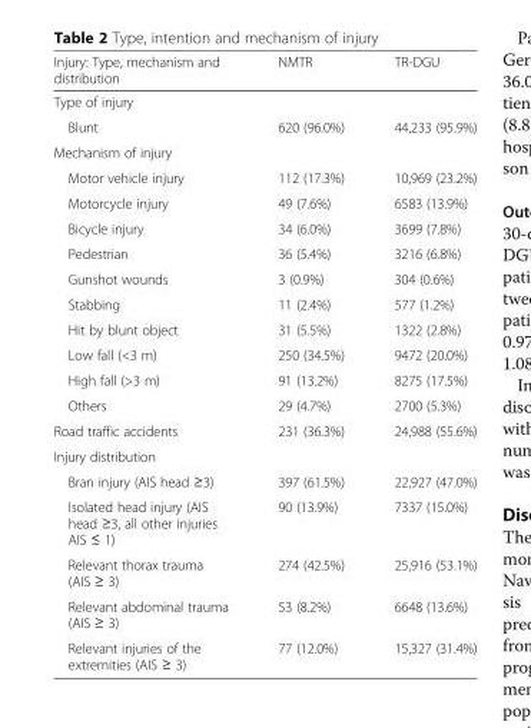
<table><thead><tr><td>Injury: Type, mechanism and distribution</td><td>NMTR</td><td>TR-DGU</td></tr></thead><tbody><tr><td colspan="3">Type of injury</td></tr><tr><td>Blunt</td><td>620 (96.0%)</td><td>44,233 (95.9%)</td></tr><tr><td colspan="3">Mechanism of injury</td></tr><tr><td>Motor vehicle injury</td><td>112 (17.3%)</td><td>10,969 (23.2%)</td></tr><tr><td>Motorcycle injury</td><td>49 (7.6%)</td><td>6583 (13.9%)</td></tr><tr><td>Bicycle injury</td><td>34 (6.0%)</td><td>3699 (7.8%)</td></tr><tr><td>Pedestrian</td><td>36 (5.4%)</td><td>3216 (6.8%)</td></tr><tr><td>Gunshot wounds</td><td>3 (0.9%)</td><td>304 (0.6%)</td></tr><tr><td>Stabbing</td><td>11 (2.4%)</td><td>577 (1.2%)</td></tr><tr><td>Hit by blunt object</td><td>31 (5.5%)</td><td>1322 (2.8%)</td></tr><tr><td>Low fall (&lt;3 m)</td><td>250 (34.5%)</td><td>9472 (20.0%)</td></tr><tr><td>High fall (&gt;3 m)</td><td>91 (13.2%)</td><td>8275 (17.5%)</td></tr><tr><td>Others</td><td>29 (4.7%)</td><td>2700 (5.3%)</td></tr><tr><td>Road traffic accidents</td><td>231 (36.3%)</td><td>24,988 (55.6%)</td></tr><tr><td colspan="3">Injury distribution</td></tr><tr><td>Bran injury (AIS head ≥3)</td><td>397 (61.5%)</td><td>22,927 (47.0%)</td></tr><tr><td>Isolated head injury (AIS head ≥3, all other injuries AIS ≤ 1)</td><td>90 (13.9%)</td><td>7337 (15.0%)</td></tr><tr><td>Relevant thorax trauma (AIS ≥ 3)</td><td>274 (42.5%)</td><td>25,916 (53.1%)</td></tr><tr><td>Relevant abdominal trauma (AIS ≥ 3)</td><td>53 (8.2%)</td><td>6648 (13.6%)</td></tr><tr><td>Relevant injuries of the extremities (AIS ≥ 3)</td><td>77 (12.0%)</td><td>15,327 (31.4%)</td></tr></tbody></table>